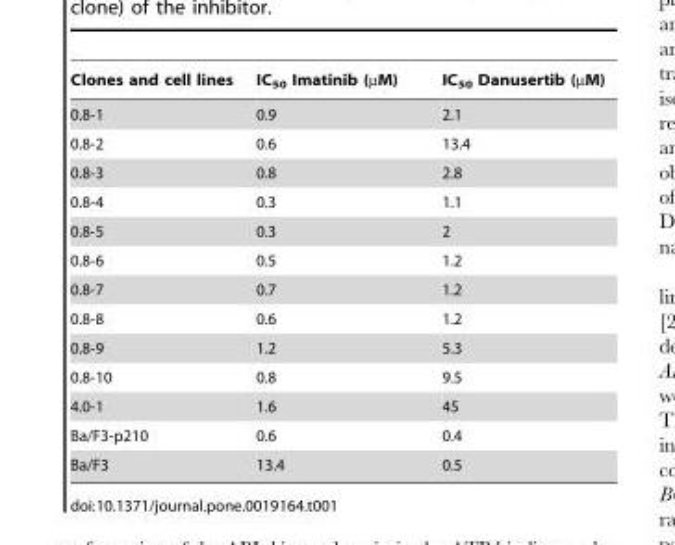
<table><thead><tr><td>Clones and cell lines</td><td>IC<sub>50</sub> Imatinib (µM)</td><td>IC<sub>50</sub> Danusertib (µM)</td></tr></thead><tbody><tr><td>0.8-1</td><td>0.9</td><td>2.1</td></tr><tr><td>0.8-2</td><td>0.6</td><td>13.4</td></tr><tr><td>0.8-3</td><td>0.8</td><td>2.8</td></tr><tr><td>0.8-4</td><td>0.3</td><td>1.1</td></tr><tr><td>0.8-5</td><td>0.3</td><td>2</td></tr><tr><td>0.8-6</td><td>0.5</td><td>1.2</td></tr><tr><td>0.8-7</td><td>0.7</td><td>1.2</td></tr><tr><td>0.8-8</td><td>0.6</td><td>1.2</td></tr><tr><td>0.8-9</td><td>1.2</td><td>5.3</td></tr><tr><td>0.8-10</td><td>0.8</td><td>9.5</td></tr><tr><td>4.0-1</td><td>1.6</td><td>45</td></tr><tr><td>Ba/F3-p210</td><td>0.6</td><td>0.4</td></tr><tr><td>Ba/F3</td><td>13.4</td><td>0.5</td></tr></tbody></table>